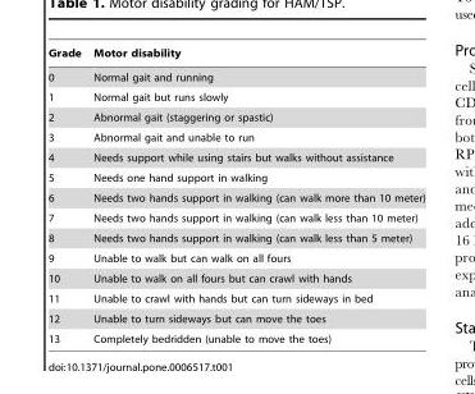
<table><thead><tr><td>Grade</td><td>Motor disability</td></tr></thead><tbody><tr><td>0</td><td>Normal gait and running</td></tr><tr><td>1</td><td>Normal gait but runs slowly</td></tr><tr><td>2</td><td>Abnormal gait (staggering or spastic)</td></tr><tr><td>3</td><td>Abnormal gait and unable to run</td></tr><tr><td>4</td><td>Needs support while using stairs but walks without assistance</td></tr><tr><td>5</td><td>Needs one hand support in walking</td></tr><tr><td>6</td><td>Needs two hands support in walking (can walk more than 10 meter)</td></tr><tr><td>7</td><td>Needs two hands support in walking (can walk less than 10 meter)</td></tr><tr><td>8</td><td>Needs two hands support in walking (can walk less than 5 meter)</td></tr><tr><td>9</td><td>Unable to walk but can walk on all fours</td></tr><tr><td>10</td><td>Unable to walk on all fours but can crawl with hands</td></tr><tr><td>11</td><td>Unable to crawl with hands but can turn sideways in bed</td></tr><tr><td>12</td><td>Unable to turn sideways but can move the toes</td></tr><tr><td>13</td><td>Completely bedridden (unable to move the toes)</td></tr></tbody></table>